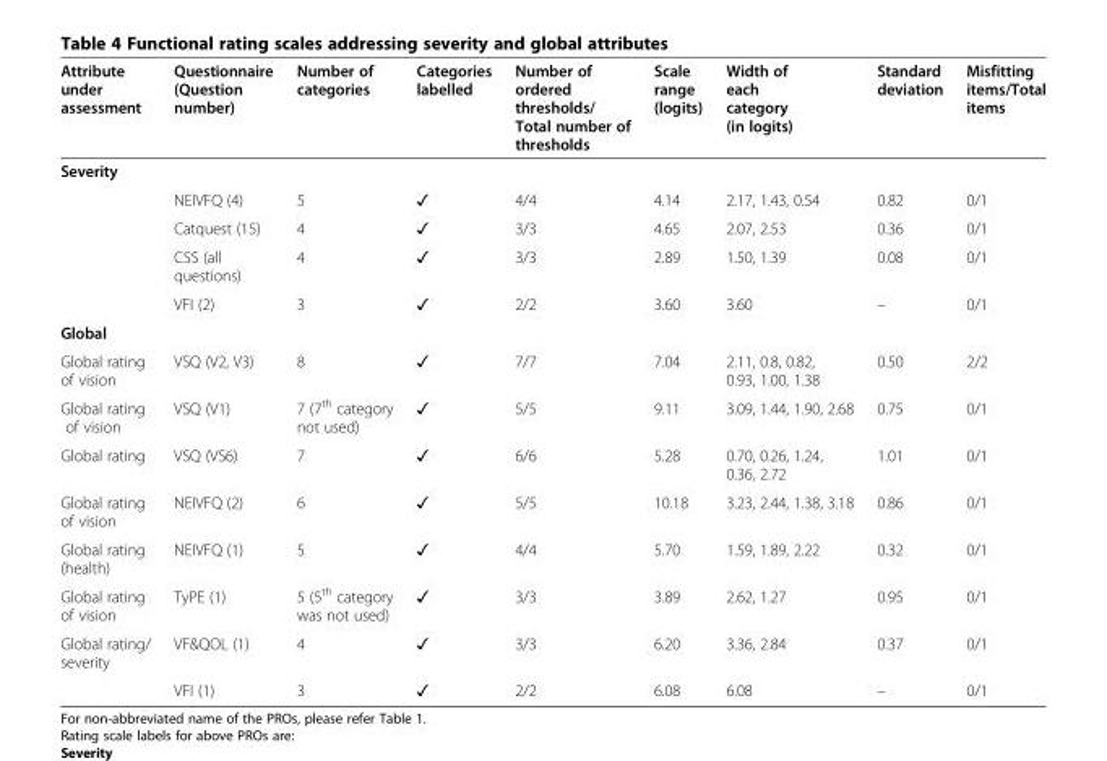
<table><thead><tr><td>Attribute under assessment</td><td>Questionnaire (Question number)</td><td>Number of categories</td><td>Categories labelled</td><td>Number of ordered thresholds/ Total number of thresholds</td><td>Scale range (logits)</td><td>Width of each category (in logits)</td><td>Standard deviation</td><td>Misfitting items/Total items</td></tr></thead><tbody><tr><td colspan="9">Severity</td></tr><tr><td></td><td>NEIVFQ (4)</td><td>5</td><td>✓</td><td>4/4</td><td>4.14</td><td>2.17, 1.43, 0.54</td><td>0.82</td><td>0/1</td></tr><tr><td></td><td>Catquest (15)</td><td>4</td><td>✓</td><td>3/3</td><td>4.65</td><td>2.07, 2.53</td><td>0.36</td><td>0/1</td></tr><tr><td></td><td>CSS (all questions)</td><td>4</td><td>✓</td><td>3/3</td><td>2.89</td><td>1.50, 1.39</td><td>0.08</td><td>0/1</td></tr><tr><td></td><td>VFI (2)</td><td>3</td><td>✓</td><td>2/2</td><td>3.60</td><td>3.60</td><td>–</td><td>0/1</td></tr><tr><td colspan="9">Global</td></tr><tr><td>Global rating of vision</td><td>VSQ (V2, V3)</td><td>8</td><td>✓</td><td>7/7</td><td>7.04</td><td>2.11, 0.8, 0.82, 0.93, 1.00, 1.38</td><td>0.50</td><td>2/2</td></tr><tr><td>Global rating of vision</td><td>VSQ (V1)</td><td>7 (7<sup>th</sup> category not used)</td><td>✓</td><td>5/5</td><td>9.11</td><td>3.09, 1.44, 1.90, 2.68</td><td>0.75</td><td>0/1</td></tr><tr><td>Global rating</td><td>VSQ (VS6)</td><td>7</td><td>✓</td><td>6/6</td><td>5.28</td><td>0.70, 0.26, 1.24, 0.36, 2.72</td><td>1.01</td><td>0/1</td></tr><tr><td>Global rating of vision</td><td>NEIVFQ (2)</td><td>6</td><td>✓</td><td>5/5</td><td>10.18</td><td>3.23, 2.44, 1.38, 3.18</td><td>0.86</td><td>0/1</td></tr><tr><td>Global rating (health)</td><td>NEIVFQ (1)</td><td>5</td><td>✓</td><td>4/4</td><td>5.70</td><td>1.59, 1.89, 2.22</td><td>0.32</td><td>0/1</td></tr><tr><td>Global rating of vision</td><td>TyPE (1)</td><td>5 (5<sup>th</sup> category was not used)</td><td>✓</td><td>3/3</td><td>3.89</td><td>2.62, 1.27</td><td>0.95</td><td>0/1</td></tr><tr><td rowspan="2">Global rating/ severity</td><td>VF&amp;QOL (1)</td><td>4</td><td>✓</td><td>3/3</td><td>6.20</td><td>3.36, 2.84</td><td>0.37</td><td>0/1</td></tr><tr><td>VFI (1)</td><td>3</td><td>✓</td><td>2/2</td><td>6.08</td><td>6.08</td><td>–</td><td>0/1</td></tr></tbody></table>